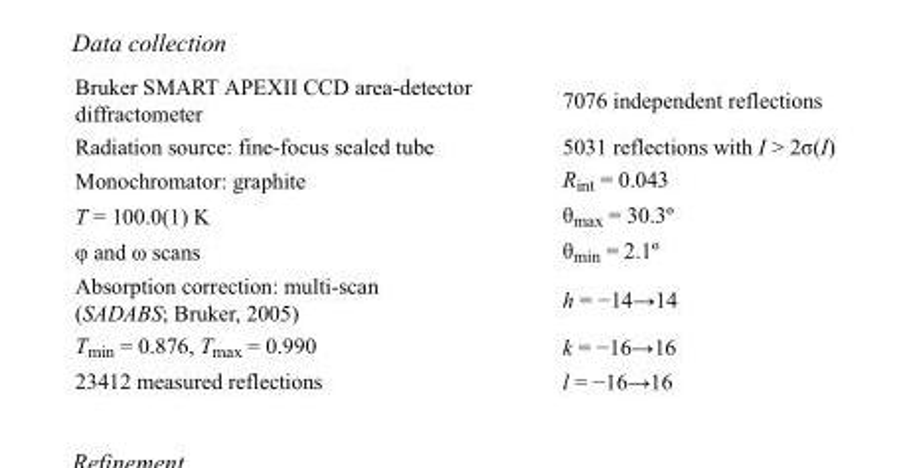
<table><tbody><tr><td>Bruker SMART APEXII CCD area-detector diffractometer</td><td>7076 independent reflections</td></tr><tr><td>Radiation source: fine-focus sealed tube</td><td>5031 reflections with I &gt; 2σ(I)</td></tr><tr><td>Monochromator: graphite</td><td>R<sub>int</sub> = 0.043</td></tr><tr><td>T = 100.0(1) K</td><td>θ<sub>max</sub> = 30.3º</td></tr><tr><td>φ and ω scans</td><td>θ<sub>min</sub> = 2.1º</td></tr><tr><td>Absorption correction: multi-scan (SADABS; Bruker, 2005)</td><td>h = −14→14</td></tr><tr><td>T<sub>min</sub> = 0.876, T<sub>max</sub> = 0.990</td><td>k = −16→16</td></tr><tr><td>23412 measured reflections</td><td>l = −16→16</td></tr></tbody></table>